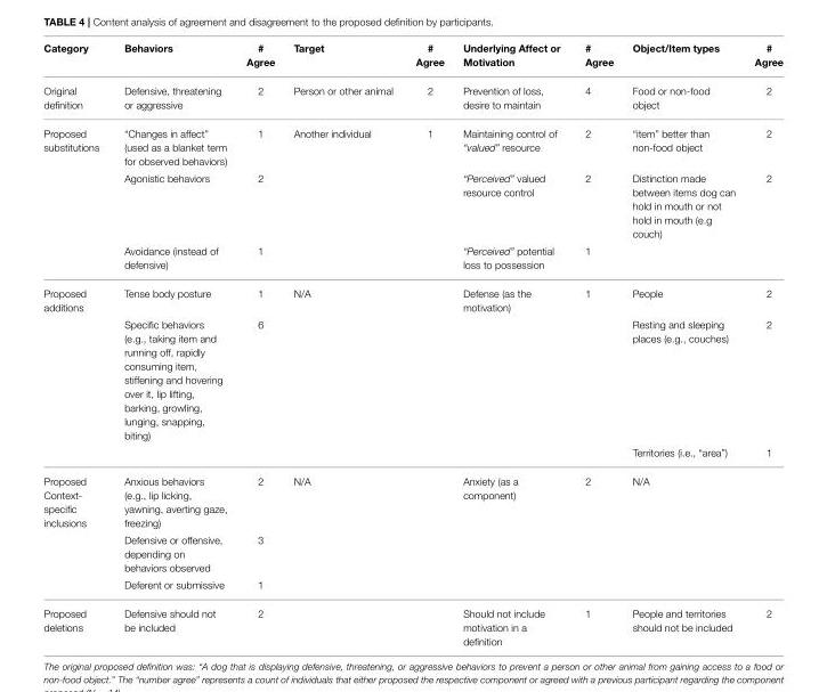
<table><thead><tr><td>Category</td><td>Behaviors</td><td># Agree</td><td>Target</td><td># Agree</td><td>Underlying Affect or Motivation</td><td># Agree</td><td>Object/Item types</td><td># Agree</td></tr></thead><tbody><tr><td>Original definition</td><td>Defensive, threatening or aggressive</td><td>2</td><td>Person or other animal</td><td>2</td><td>Prevention of loss, desire to maintain</td><td>4</td><td>Food or non-food object</td><td>2</td></tr><tr><td rowspan="3">Proposed substitutions</td><td>“Changes in affect” (used as a blanket term for observed behaviors)</td><td>1</td><td>Another individual</td><td>1</td><td>Maintaining control of “valued” resource</td><td>2</td><td>“item” better than non-food object</td><td>2</td></tr><tr><td>Agonistic behaviors</td><td>2</td><td></td><td></td><td>“Perceived” valued resource control</td><td>2</td><td>Distinction made between items dog can hold in mouth or not hold in mouth (e.g couch)</td><td>2</td></tr><tr><td>Avoidance (instead of defensive)</td><td>1</td><td></td><td></td><td>“Perceived” potential loss to possession</td><td>1</td><td></td><td></td></tr><tr><td rowspan="3">Proposed additions</td><td>Tense body posture</td><td>1</td><td>N/A</td><td></td><td>Defense (as the motivation)</td><td>1</td><td>People</td><td>2</td></tr><tr><td>Specific behaviors (e.g., taking item and running off, rapidly consuming item, stiffening and hovering over it, lip lifting, barking, growling, lunging, snapping, biting)</td><td>6</td><td></td><td></td><td></td><td></td><td>Resting and sleeping places (e.g., couches)</td><td>2</td></tr><tr><td></td><td></td><td></td><td></td><td></td><td></td><td>Territories (i.e., “area”)</td><td>1</td></tr><tr><td rowspan="3">Proposed Context- specific inclusions</td><td>Anxious behaviors (e.g., lip licking, yawning, averting gaze, freezing)</td><td>2</td><td>N/A</td><td></td><td>Anxiety (as a component)</td><td>2</td><td>N/A</td><td></td></tr><tr><td>Defensive or offensive, depending on behaviors observed</td><td>3</td><td></td><td></td><td></td><td></td><td></td><td></td></tr><tr><td>Deferent or submissive</td><td>1</td><td></td><td></td><td></td><td></td><td></td><td></td></tr><tr><td>Proposed deletions</td><td>Defensive should not be included</td><td>2</td><td></td><td></td><td>Should not include motivation in a definition</td><td>1</td><td>People and territories should not be included</td><td>2</td></tr></tbody></table>